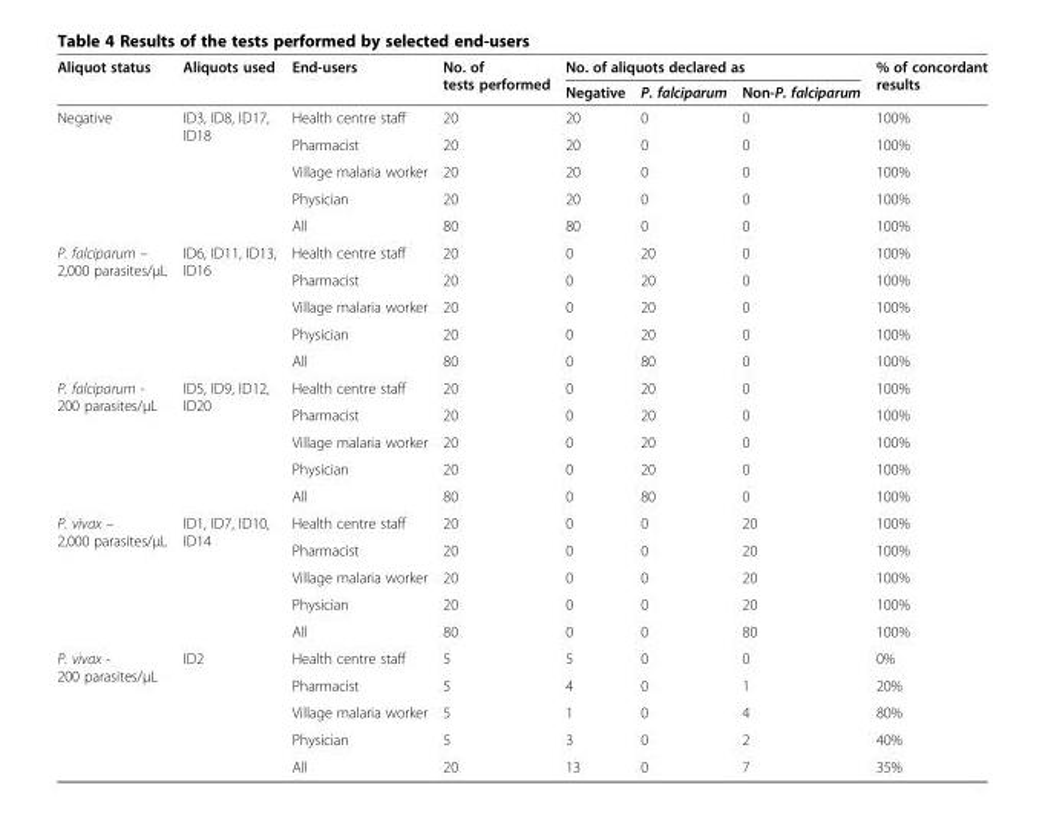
<table><thead><tr><td rowspan="2">Aliquot status</td><td rowspan="2">Aliquots used</td><td rowspan="2">End-users</td><td rowspan="2">No. of tests performed</td><td colspan="3">No. of aliquots declared as</td><td rowspan="2">% of concordant results</td></tr><tr><td>Negative</td><td>P. falciparum</td><td>Non-P. falciparum</td></tr></thead><tbody><tr><td rowspan="5">Negative</td><td rowspan="5">ID3, ID8, ID17, ID18</td><td>Health centre staff</td><td>20</td><td>20</td><td>0</td><td>0</td><td>100%</td></tr><tr><td>Pharmacist</td><td>20</td><td>20</td><td>0</td><td>0</td><td>100%</td></tr><tr><td>Village malaria worker</td><td>20</td><td>20</td><td>0</td><td>0</td><td>100%</td></tr><tr><td>Physician</td><td>20</td><td>20</td><td>0</td><td>0</td><td>100%</td></tr><tr><td>All</td><td>80</td><td>80</td><td>0</td><td>0</td><td>100%</td></tr><tr><td rowspan="5">P. falciparum – 2,000 parasites/μL</td><td rowspan="5">ID6, ID11, ID13, ID16</td><td>Health centre staff</td><td>20</td><td>0</td><td>20</td><td>0</td><td>100%</td></tr><tr><td>Pharmacist</td><td>20</td><td>0</td><td>20</td><td>0</td><td>100%</td></tr><tr><td>Village malaria worker</td><td>20</td><td>0</td><td>20</td><td>0</td><td>100%</td></tr><tr><td>Physician</td><td>20</td><td>0</td><td>20</td><td>0</td><td>100%</td></tr><tr><td>All</td><td>80</td><td>0</td><td>80</td><td>0</td><td>100%</td></tr><tr><td rowspan="5">P. falciparum - 200 parasites/μL</td><td rowspan="5">ID5, ID9, ID12, ID20</td><td>Health centre staff</td><td>20</td><td>0</td><td>20</td><td>0</td><td>100%</td></tr><tr><td>Pharmacist</td><td>20</td><td>0</td><td>20</td><td>0</td><td>100%</td></tr><tr><td>Village malaria worker</td><td>20</td><td>0</td><td>20</td><td>0</td><td>100%</td></tr><tr><td>Physician</td><td>20</td><td>0</td><td>20</td><td>0</td><td>100%</td></tr><tr><td>All</td><td>80</td><td>0</td><td>80</td><td>0</td><td>100%</td></tr><tr><td rowspan="5">P. vivax – 2,000 parasites/μL</td><td rowspan="5">ID1, ID7, ID10, ID14</td><td>Health centre staff</td><td>20</td><td>0</td><td>0</td><td>20</td><td>100%</td></tr><tr><td>Pharmacist</td><td>20</td><td>0</td><td>0</td><td>20</td><td>100%</td></tr><tr><td>Village malaria worker</td><td>20</td><td>0</td><td>0</td><td>20</td><td>100%</td></tr><tr><td>Physician</td><td>20</td><td>0</td><td>0</td><td>20</td><td>100%</td></tr><tr><td>All</td><td>80</td><td>0</td><td>0</td><td>80</td><td>100%</td></tr><tr><td rowspan="5">P. vivax - 200 parasites/μL</td><td rowspan="5">ID2</td><td>Health centre staff</td><td>5</td><td>5</td><td>0</td><td>0</td><td>0%</td></tr><tr><td>Pharmacist</td><td>5</td><td>4</td><td>0</td><td>1</td><td>20%</td></tr><tr><td>Village malaria worker</td><td>5</td><td>1</td><td>0</td><td>4</td><td>80%</td></tr><tr><td>Physician</td><td>5</td><td>3</td><td>0</td><td>2</td><td>40%</td></tr><tr><td>All</td><td>20</td><td>13</td><td>0</td><td>7</td><td>35%</td></tr></tbody></table>